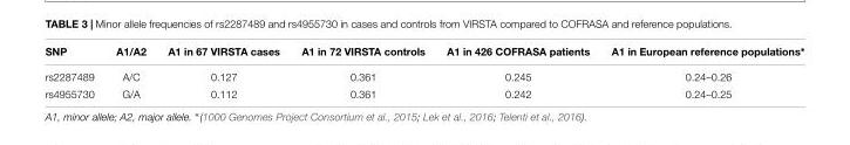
<table><thead><tr><td>SNP</td><td>A1/A2</td><td>A1 in 67 VIRSTA cases</td><td>A1 in 72 VIRSTA controls</td><td>A1 in 426 COFRASA patients</td><td>A1 in European reference populations∗</td></tr></thead><tbody><tr><td>rs2287489</td><td>A/C</td><td>0.127</td><td>0.361</td><td>0.245</td><td>0.24–0.26</td></tr><tr><td>rs4955730</td><td>G/A</td><td>0.112</td><td>0.361</td><td>0.242</td><td>0.24–0.25</td></tr></tbody></table>